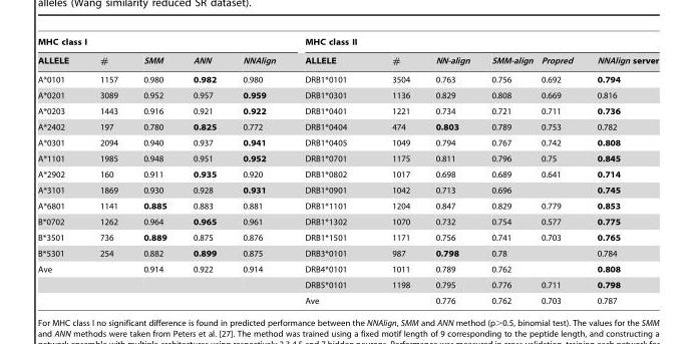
<table><thead><tr><td colspan="5">MHC class I</td><td colspan="6">MHC class II</td></tr><tr><td>ALLELE</td><td>#</td><td>SMM</td><td>ANN</td><td>NNAlign</td><td>ALLELE</td><td>#</td><td>NN-align</td><td>SMM-align</td><td>Propred</td><td>NNAlign server</td></tr></thead><tbody><tr><td>A*0101</td><td>1157</td><td>0.980</td><td>0.982</td><td>0.980</td><td>DRB1*0101</td><td>3504</td><td>0.763</td><td>0.756</td><td>0.692</td><td>0.794</td></tr><tr><td>A*0201</td><td>3089</td><td>0.952</td><td>0.957</td><td>0.959</td><td>DRB1*0301</td><td>1136</td><td>0.829</td><td>0.808</td><td>0.669</td><td>0.816</td></tr><tr><td>A*0203</td><td>1443</td><td>0.916</td><td>0.921</td><td>0.922</td><td>DRB1*0401</td><td>1221</td><td>0.734</td><td>0.721</td><td>0.711</td><td>0.736</td></tr><tr><td>A*2402</td><td>197</td><td>0.780</td><td>0.825</td><td>0.772</td><td>DRB1*0404</td><td>474</td><td>0.803</td><td>0.789</td><td>0.753</td><td>0.782</td></tr><tr><td>A*0301</td><td>2094</td><td>0.940</td><td>0.937</td><td>0.941</td><td>DRB1*0405</td><td>1049</td><td>0.794</td><td>0.767</td><td>0.742</td><td>0.808</td></tr><tr><td>A*1101</td><td>1985</td><td>0.948</td><td>0.951</td><td>0.952</td><td>DRB1*0701</td><td>1175</td><td>0.811</td><td>0.796</td><td>0.75</td><td>0.845</td></tr><tr><td>A*2902</td><td>160</td><td>0.911</td><td>0.935</td><td>0.920</td><td>DRB1*0802</td><td>1017</td><td>0.698</td><td>0.689</td><td>0.641</td><td>0.714</td></tr><tr><td>A*3101</td><td>1869</td><td>0.930</td><td>0.928</td><td>0.931</td><td>DRB1*0901</td><td>1042</td><td>0.713</td><td>0.696</td><td></td><td>0.745</td></tr><tr><td>A*6801</td><td>1141</td><td>0.885</td><td>0.883</td><td>0.881</td><td>DRB1*1101</td><td>1204</td><td>0.847</td><td>0.829</td><td>0.779</td><td>0.853</td></tr><tr><td>B*0702</td><td>1262</td><td>0.964</td><td>0.965</td><td>0.961</td><td>DRB1*1302</td><td>1070</td><td>0.732</td><td>0.754</td><td>0.577</td><td>0.775</td></tr><tr><td>B*3501</td><td>736</td><td>0.889</td><td>0.875</td><td>0.876</td><td>DRB1*1501</td><td>1171</td><td>0.756</td><td>0.741</td><td>0.703</td><td>0.765</td></tr><tr><td>B*5301</td><td>254</td><td>0.882</td><td>0.899</td><td>0.875</td><td>DRB3*0101</td><td>987</td><td>0.798</td><td>0.78</td><td></td><td>0.784</td></tr><tr><td rowspan="3">Ave</td><td></td><td>0.914</td><td>0.922</td><td>0.914</td><td>DRB4*0101</td><td>1011</td><td>0.789</td><td>0.762</td><td></td><td>0.808</td></tr><tr><td></td><td></td><td></td><td></td><td>DRB5*0101</td><td>1198</td><td>0.795</td><td>0.776</td><td>0.711</td><td>0.798</td></tr><tr><td></td><td></td><td></td><td></td><td>Ave</td><td></td><td>0.776</td><td>0.762</td><td>0.703</td><td>0.787</td></tr></tbody></table>